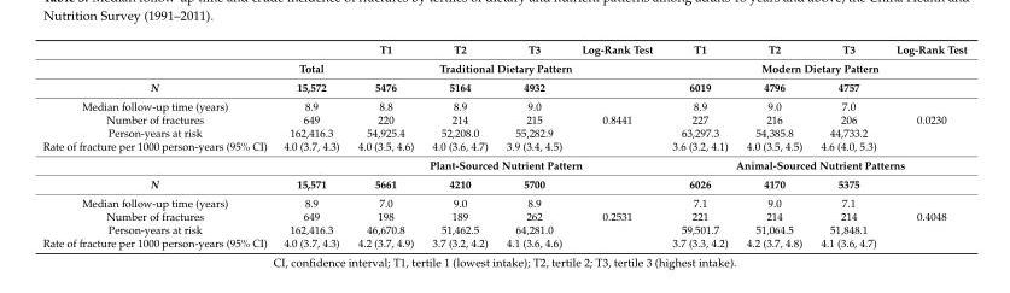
<table><thead><tr><td></td><td></td><td>T1</td><td>T2</td><td>T3</td><td>Log-Rank Test</td><td>T1</td><td>T2</td><td>T3</td><td>Log-Rank Test</td></tr></thead><tbody><tr><td></td><td>Total</td><td colspan="4">Traditional Dietary Pattern</td><td colspan="4">Modern Dietary Pattern</td></tr><tr><td>N</td><td>15,572</td><td>5476</td><td>5164</td><td>4932</td><td></td><td>6019</td><td>4796</td><td>4757</td><td></td></tr><tr><td>Median follow-up time (years)</td><td>8.9</td><td>8.8</td><td>8.9</td><td>9.0</td><td></td><td>8.9</td><td>9.0</td><td>7.0</td><td></td></tr><tr><td>Number of fractures</td><td>649</td><td>220</td><td>214</td><td>215</td><td>0.8441</td><td>227</td><td>216</td><td>206</td><td>0.0230</td></tr><tr><td>Person-years at risk</td><td>162,416.3</td><td>54,925.4</td><td>52,208.0</td><td>55,282.9</td><td></td><td>63,297.3</td><td>54,385.8</td><td>44,733.2</td><td></td></tr><tr><td rowspan="2">Rate of fracture per 1000 person-years (95% CI)</td><td>4.0 (3.7, 4.3)</td><td>4.0 (3.5, 4.6)</td><td>4.0 (3.6, 4.7)</td><td>3.9 (3.4, 4.5)</td><td></td><td>3.6 (3.2, 4.1)</td><td>4.0 (3.5, 4.5)</td><td>4.6 (4.0, 5.3)</td><td></td></tr><tr><td></td><td colspan="4">Plant-Sourced Nutrient Pattern</td><td colspan="4">Animal-Sourced Nutrient Patterns</td></tr><tr><td>N</td><td>15,571</td><td>5661</td><td>4210</td><td>5700</td><td></td><td>6026</td><td>4170</td><td>5375</td><td></td></tr><tr><td>Median follow-up time (years)</td><td>8.9</td><td>7.0</td><td>9.0</td><td>8.9</td><td></td><td>7.1</td><td>9.0</td><td>7.1</td><td></td></tr><tr><td>Number of fractures</td><td>649</td><td>198</td><td>189</td><td>262</td><td>0.2531</td><td>221</td><td>214</td><td>214</td><td>0.4048</td></tr><tr><td>Person-years at risk</td><td>162,416.3</td><td>46,670.8</td><td>51,462.5</td><td>64,281.0</td><td></td><td>59,501.7</td><td>51,064.5</td><td>51,848.1</td><td></td></tr><tr><td>Rate of fracture per 1000 person-years (95% CI)</td><td>4.0 (3.7, 4.3)</td><td>4.2 (3.7, 4.9)</td><td>3.7 (3.2, 4.2)</td><td>4.1 (3.6, 4.6)</td><td></td><td>3.7 (3.3, 4.2)</td><td>4.2 (3.7, 4.8)</td><td>4.1 (3.6, 4.7)</td><td></td></tr></tbody></table>